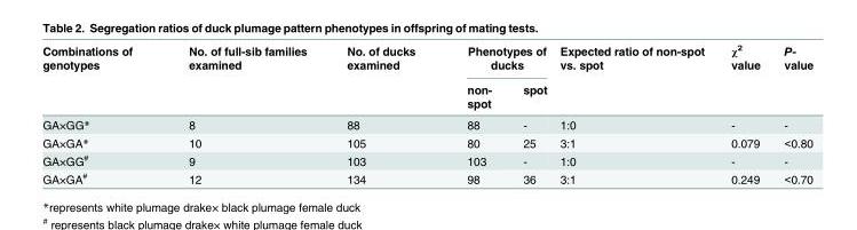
<table><thead><tr><td rowspan="2">Combinations of genotypes</td><td rowspan="2">No. of full-sib families examined</td><td rowspan="2">No. of ducks examined</td><td colspan="2">Phenotypes of ducks</td><td rowspan="2">Expected ratio of non-spot vs. spot</td><td rowspan="2">χ<sup>2</sup> value</td><td rowspan="2">P- value</td></tr><tr><td>non- spot</td><td>spot</td></tr></thead><tbody><tr><td>GA×GG*</td><td>8</td><td>88</td><td>88</td><td>-</td><td>1:0</td><td>-</td><td>-</td></tr><tr><td>GA×GA*</td><td>10</td><td>105</td><td>80</td><td>25</td><td>3:1</td><td>0.079</td><td>&lt;0.80</td></tr><tr><td>GA×GG<sup>#</sup></td><td>9</td><td>103</td><td>103</td><td>-</td><td>1:0</td><td>-</td><td>-</td></tr><tr><td>GA×GA<sup>#</sup></td><td>12</td><td>134</td><td>98</td><td>36</td><td>3:1</td><td>0.249</td><td>&lt;0.70</td></tr></tbody></table>